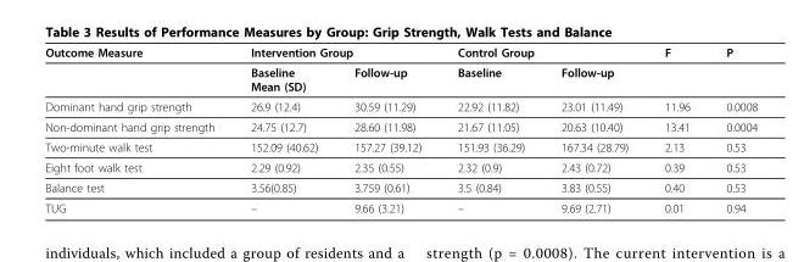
<table><thead><tr><td rowspan="2">Outcome Measure</td><td colspan="2">Intervention Group</td><td colspan="2">Control Group</td><td rowspan="2">F</td><td rowspan="2">P</td></tr><tr><td>Baseline Mean (SD)</td><td>Follow-up</td><td>Baseline</td><td>Follow-up</td></tr></thead><tbody><tr><td>Dominant hand grip strength</td><td>26.9 (12.4)</td><td>30.59 (11.29)</td><td>22.92 (11.82)</td><td>23.01 (11.49)</td><td>11.96</td><td>0.0008</td></tr><tr><td>Non-dominant hand grip strength</td><td>24.75 (12.7)</td><td>28.60 (11.98)</td><td>21.67 (11.05)</td><td>20.63 (10.40)</td><td>13.41</td><td>0.0004</td></tr><tr><td>Two-minute walk test</td><td>152.09 (40.62)</td><td>157.27 (39.12)</td><td>151.93 (36.29)</td><td>167.34 (28.79)</td><td>2.13</td><td>0.53</td></tr><tr><td>Eight foot walk test</td><td>2.29 (0.92)</td><td>2.35 (0.55)</td><td>2.32 (0.9)</td><td>2.43 (0.72)</td><td>0.39</td><td>0.53</td></tr><tr><td>Balance test</td><td>3.56(0.85)</td><td>3.759 (0.61)</td><td>3.5 (0.84)</td><td>3.83 (0.55)</td><td>0.40</td><td>0.53</td></tr><tr><td>TUG</td><td>–</td><td>9.66 (3.21)</td><td>–</td><td>9.69 (2.71)</td><td>0.01</td><td>0.94</td></tr></tbody></table>